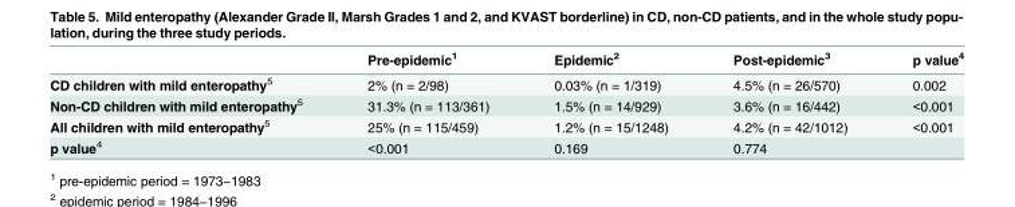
<table><thead><tr><td></td><td>Pre-epidemic<sup>1</sup></td><td>Epidemic<sup>2</sup></td><td>Post-epidemic<sup>3</sup></td><td>p value<sup>4</sup></td></tr></thead><tbody><tr><td>CD children with mild enteropathy<sup>5</sup></td><td>2% (n = 2/98)</td><td>0.03% (n = 1/319)</td><td>4.5% (n = 26/570)</td><td>0.002</td></tr><tr><td>Non-CD children with mild enteropathy<sup>5</sup></td><td>31.3% (n = 113/361)</td><td>1.5% (n = 14/929)</td><td>3.6% (n = 16/442)</td><td>&lt;0.001</td></tr><tr><td>All children with mild enteropathy<sup>5</sup></td><td>25% (n = 115/459)</td><td>1.2% (n = 15/1248)</td><td>4.2% (n = 42/1012)</td><td>&lt;0.001</td></tr><tr><td>p value<sup>4</sup></td><td>&lt;0.001</td><td>0.169</td><td>0.774</td><td></td></tr></tbody></table>